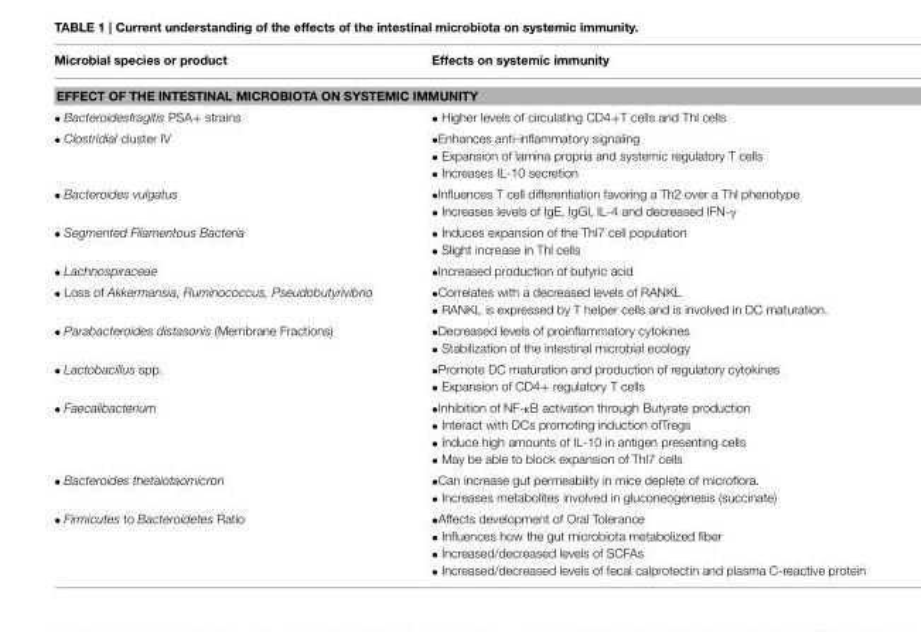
<table><thead><tr><td>Microbial species or product</td><td>Effects on systemic immunity</td></tr></thead><tbody><tr><td colspan="2">EFFECT OF THE INTESTINAL MICROBIOTA ON SYSTEMIC IMMUNITY</td></tr><tr><td>• Bacteroidesfragitis PSA+ strains</td><td>• Higher levels of circulating CD4+T cells and Thl cells</td></tr><tr><td>• Clostridial cluster IV</td><td>•Enhances anti-inflammatory signaling • Expansion of lamina propria and systemic regulatory T cells • Increases IL-10 secretion</td></tr><tr><td>• Bacteroides vulgatus</td><td>•Influences T cell differentiation favoring a Th2 over a Thl phenotype • Increases levels of IgE, IgGl, IL-4 and decreased IFN-γ</td></tr><tr><td>• Segmented Filamentous Bacteria</td><td>• Induces expansion of the Thl7 cell population • Slight increase in Thl cells</td></tr><tr><td>• Lachnospiraceae</td><td>•Increased production of butyric acid</td></tr><tr><td>• Loss of Akkermansia, Ruminococcus, Pseudobutyrivibrio</td><td>•Correlates with a decreased levels of RANKL • RANKL is expressed by T helper cells and is involved in DC maturation.</td></tr><tr><td>• Parabacteroides distasonis (Membrane Fractions)</td><td>•Decreased levels of proinflammatory cytokines • Stabilization of the intestinal microbial ecology</td></tr><tr><td>• Lactobacillus spp.</td><td>•Promote DC maturation and production of regulatory cytokines • Expansion of CD4+ regulatory T cells</td></tr><tr><td>• Faecalibacterium</td><td>•Inhibition of NF-κB activation through Butyrate production • Interact with DCs promoting induction ofTregs • Induce high amounts of IL-10 in antigen presenting cells • May be able to block expansion of Thl7 cells</td></tr><tr><td>• Bacteroides thetaiotaomicron</td><td>•Can increase gut permeability in mice deplete of microflora. • Increases metabolites involved in gluconeogenesis (succinate)</td></tr><tr><td>• Firmicutes to Bacteroidetes Ratio</td><td>•Affects development of Oral Tolerance • Influences how the gut microbiota metabolized fiber • Increased/decreased levels of SCFAs • Increased/decreased levels of fecal calprotectin and plasma C-reactive protein</td></tr></tbody></table>